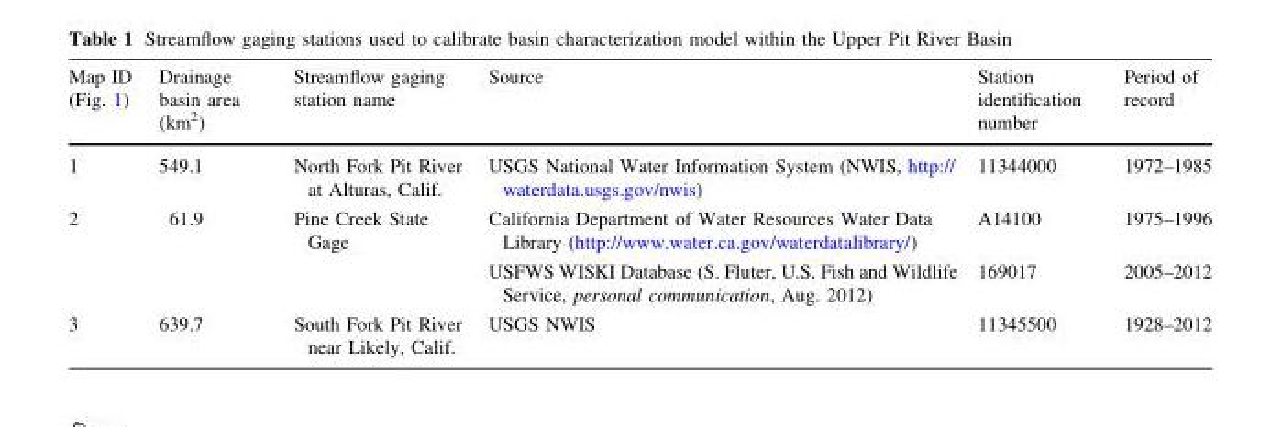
<table><thead><tr><td>Map ID (Fig. 1)</td><td>Drainage basin area (km<sup>2</sup>)</td><td>Streamflow gaging station name</td><td>Source</td><td>Station identification number</td><td>Period of record</td></tr></thead><tbody><tr><td>1</td><td>549.1</td><td>North Fork Pit River at Alturas, Calif.</td><td>USGS National Water Information System (NWIS, http:// waterdata.usgs.gov/nwis)</td><td>11344000</td><td>1972–1985</td></tr><tr><td rowspan="2">2</td><td rowspan="2">61.9</td><td rowspan="2">Pine Creek State Gage</td><td>California Department of Water Resources Water Data Library (http://www.water.ca.gov/waterdatalibrary/)</td><td>A14100</td><td>1975–1996</td></tr><tr><td>USFWS WISKI Database (S. Fluter, U.S. Fish and Wildlife Service, personal communication, Aug. 2012)</td><td>169017</td><td>2005–2012</td></tr><tr><td>3</td><td>639.7</td><td>South Fork Pit River near Likely, Calif.</td><td>USGS NWIS</td><td>11345500</td><td>1928–2012</td></tr></tbody></table>